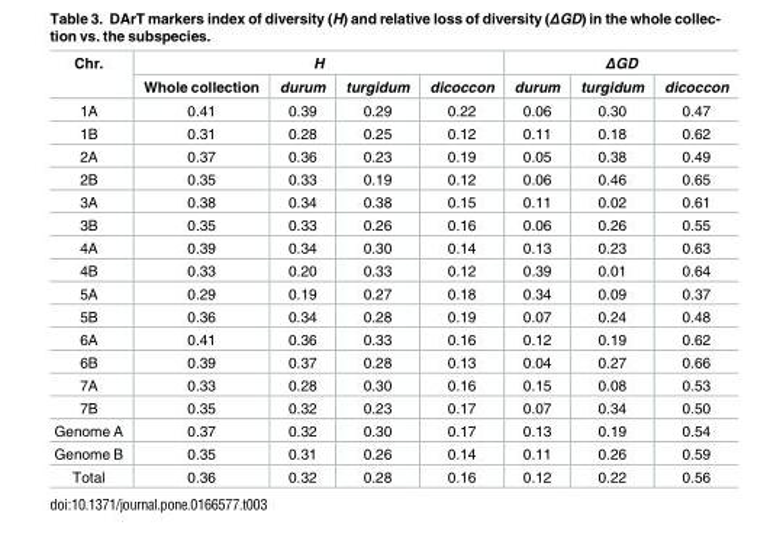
<table><thead><tr><td rowspan="2">Chr.</td><td colspan="4">H</td><td colspan="3">ΔGD</td></tr><tr><td>Whole collection</td><td>durum</td><td>turgidum</td><td>dicoccon</td><td>durum</td><td>turgidum</td><td>dicoccon</td></tr></thead><tbody><tr><td>1A</td><td>0.41</td><td>0.39</td><td>0.29</td><td>0.22</td><td>0.06</td><td>0.30</td><td>0.47</td></tr><tr><td>1B</td><td>0.31</td><td>0.28</td><td>0.25</td><td>0.12</td><td>0.11</td><td>0.18</td><td>0.62</td></tr><tr><td>2A</td><td>0.37</td><td>0.36</td><td>0.23</td><td>0.19</td><td>0.05</td><td>0.38</td><td>0.49</td></tr><tr><td>2B</td><td>0.35</td><td>0.33</td><td>0.19</td><td>0.12</td><td>0.06</td><td>0.46</td><td>0.65</td></tr><tr><td>3A</td><td>0.38</td><td>0.34</td><td>0.38</td><td>0.15</td><td>0.11</td><td>0.02</td><td>0.61</td></tr><tr><td>3B</td><td>0.35</td><td>0.33</td><td>0.26</td><td>0.16</td><td>0.06</td><td>0.26</td><td>0.55</td></tr><tr><td>4A</td><td>0.39</td><td>0.34</td><td>0.30</td><td>0.14</td><td>0.13</td><td>0.23</td><td>0.63</td></tr><tr><td>4B</td><td>0.33</td><td>0.20</td><td>0.33</td><td>0.12</td><td>0.39</td><td>0.01</td><td>0.64</td></tr><tr><td>5A</td><td>0.29</td><td>0.19</td><td>0.27</td><td>0.18</td><td>0.34</td><td>0.09</td><td>0.37</td></tr><tr><td>5B</td><td>0.36</td><td>0.34</td><td>0.28</td><td>0.19</td><td>0.07</td><td>0.24</td><td>0.48</td></tr><tr><td>6A</td><td>0.41</td><td>0.36</td><td>0.33</td><td>0.16</td><td>0.12</td><td>0.19</td><td>0.62</td></tr><tr><td>6B</td><td>0.39</td><td>0.37</td><td>0.28</td><td>0.13</td><td>0.04</td><td>0.27</td><td>0.66</td></tr><tr><td>7A</td><td>0.33</td><td>0.28</td><td>0.30</td><td>0.16</td><td>0.15</td><td>0.08</td><td>0.53</td></tr><tr><td>7B</td><td>0.35</td><td>0.32</td><td>0.23</td><td>0.17</td><td>0.07</td><td>0.34</td><td>0.50</td></tr><tr><td>Genome A</td><td>0.37</td><td>0.32</td><td>0.30</td><td>0.17</td><td>0.13</td><td>0.19</td><td>0.54</td></tr><tr><td>Genome B</td><td>0.35</td><td>0.31</td><td>0.26</td><td>0.14</td><td>0.11</td><td>0.26</td><td>0.59</td></tr><tr><td>Total</td><td>0.36</td><td>0.32</td><td>0.28</td><td>0.16</td><td>0.12</td><td>0.22</td><td>0.56</td></tr></tbody></table>